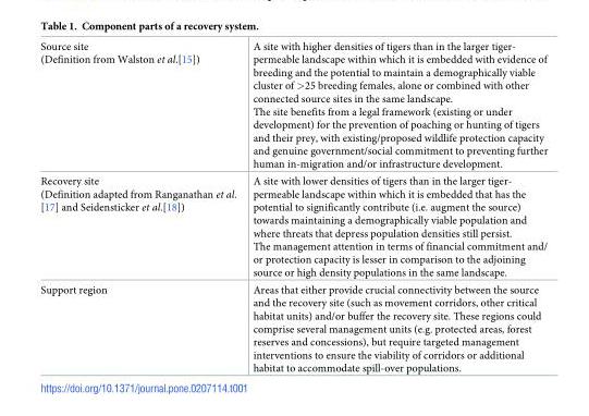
<table><tbody><tr><td>Source site (Definition from Walston et al.[15])</td><td>A site with higher densities of tigers than in the larger tiger- permeable landscape within which it is embedded with evidence of breeding and the potential to maintain a demographically viable cluster of &gt;25 breeding females, alone or combined with other connected source sites in the same landscape. The site benefits from a legal framework (existing or under development) for the prevention of poaching or hunting of tigers and their prey, with existing/proposed wildlife protection capacity and genuine government/social commitment to preventing further human in-migration and/or infrastructure development.</td></tr><tr><td>Recovery site (Definition adapted from Ranganathan et al. [17] and Seidensticker et al.[18])</td><td>A site with lower densities of tigers than in the larger tiger- permeable landscape within which it is embedded that has the potential to significantly contribute (i.e. augment the source) towards maintaining a demographically viable population and where threats that depress population densities still persist. The management attention in terms of financial commitment and/ or protection capacity is lesser in comparison to the adjoining source or high density populations in the same landscape.</td></tr><tr><td>Support region</td><td>Areas that either provide crucial connectivity between the source and the recovery site (such as movement corridors, other critical habitat units) and/or buffer the recovery site. These regions could comprise several management units (e.g. protected areas, forest reserves and concessions), but require targeted management interventions to ensure the viability of corridors or additional habitat to accommodate spill-over populations.</td></tr></tbody></table>